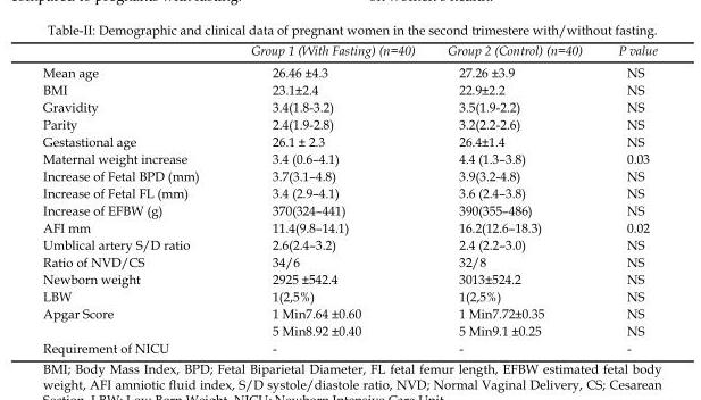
<table><thead><tr><td></td><td>Group 1 (With Fasting) (n=40)</td><td>Group 2 (Control) (n=40)</td><td>P value</td></tr></thead><tbody><tr><td>Mean age</td><td>26.46 ±4.3</td><td>27.26 ±3.9</td><td>NS</td></tr><tr><td>BMI</td><td>23.1±2.4</td><td>22.9±2.2</td><td>NS</td></tr><tr><td>Gravidity</td><td>3.4(1.8-3.2)</td><td>3.5(1.9-2.2)</td><td>NS</td></tr><tr><td>Parity</td><td>2.4(1.9-2.8)</td><td>3.2(2.2-2.6)</td><td>NS</td></tr><tr><td>Gestastional age</td><td>26.1 ± 2.3</td><td>26.4±1.4</td><td>NS</td></tr><tr><td>Maternal weight increase</td><td>3.4 (0.6–4.1)</td><td>4.4 (1.3–3.8)</td><td>0.03</td></tr><tr><td>Increase of Fetal BPD (mm)</td><td>3.7(3.1–4.8)</td><td>3.9(3.2-4.8)</td><td>NS</td></tr><tr><td>Increase of Fetal FL (mm)</td><td>3.4 (2.9–4.1)</td><td>3.6 (2.4–3.8)</td><td>NS</td></tr><tr><td>Increase of EFBW (g)</td><td>370(324–441)</td><td>390(355–486)</td><td>NS</td></tr><tr><td>AFI mm</td><td>11.4(9.8–14.1)</td><td>16.2(12.6–18.3)</td><td>0.02</td></tr><tr><td>Umblical artery S/D ratio</td><td>2.6(2.4–3.2)</td><td>2.4 (2.2–3.0)</td><td>NS</td></tr><tr><td>Ratio of NVD/CS</td><td>34/6</td><td>32/8</td><td>NS</td></tr><tr><td>Newborn weight</td><td>2925 ±542.4</td><td>3013±524.2</td><td>NS</td></tr><tr><td>LBW</td><td>1(2,5%)</td><td>1(2,5%)</td><td>NS</td></tr><tr><td rowspan="2">Apgar Score</td><td>1 Min7.64 ±0.60</td><td>1 Min7.72±0.35</td><td>NS</td></tr><tr><td>5 Min8.92 ±0.40</td><td>5 Min9.1 ±0.25</td><td>NS</td></tr><tr><td>Requirement of NICU</td><td>-</td><td>-</td><td>-</td></tr></tbody></table>